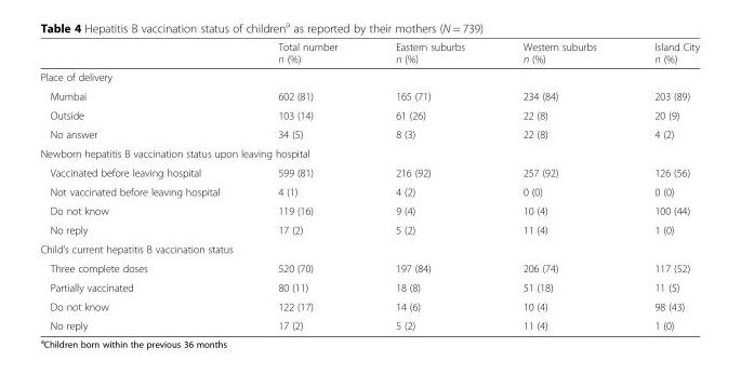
<table><thead><tr><td></td><td>Total number n (%)</td><td>Eastern suburbs n (%)</td><td>Western suburbs n (%)</td><td>Island City n (%)</td></tr></thead><tbody><tr><td colspan="5">Place of delivery</td></tr><tr><td>Mumbai</td><td>602 (81)</td><td>165 (71)</td><td>234 (84)</td><td>203 (89)</td></tr><tr><td>Outside</td><td>103 (14)</td><td>61 (26)</td><td>22 (8)</td><td>20 (9)</td></tr><tr><td>No answer</td><td>34 (5)</td><td>8 (3)</td><td>22 (8)</td><td>4 (2)</td></tr><tr><td colspan="5">Newborn hepatitis B vaccination status upon leaving hospital</td></tr><tr><td>Vaccinated before leaving hospital</td><td>599 (81)</td><td>216 (92)</td><td>257 (92)</td><td>126 (56)</td></tr><tr><td>Not vaccinated before leaving hospital</td><td>4 (1)</td><td>4 (2)</td><td>0 (0)</td><td>0 (0)</td></tr><tr><td>Do not know</td><td>119 (16)</td><td>9 (4)</td><td>10 (4)</td><td>100 (44)</td></tr><tr><td>No reply</td><td>17 (2)</td><td>5 (2)</td><td>11 (4)</td><td>1 (0)</td></tr><tr><td colspan="5">Child’s current hepatitis B vaccination status</td></tr><tr><td>Three complete doses</td><td>520 (70)</td><td>197 (84)</td><td>206 (74)</td><td>117 (52)</td></tr><tr><td>Partially vaccinated</td><td>80 (11)</td><td>18 (8)</td><td>51 (18)</td><td>11 (5)</td></tr><tr><td>Do not know</td><td>122 (17)</td><td>14 (6)</td><td>10 (4)</td><td>98 (43)</td></tr><tr><td>No reply</td><td>17 (2)</td><td>5 (2)</td><td>11 (4)</td><td>1 (0)</td></tr></tbody></table>